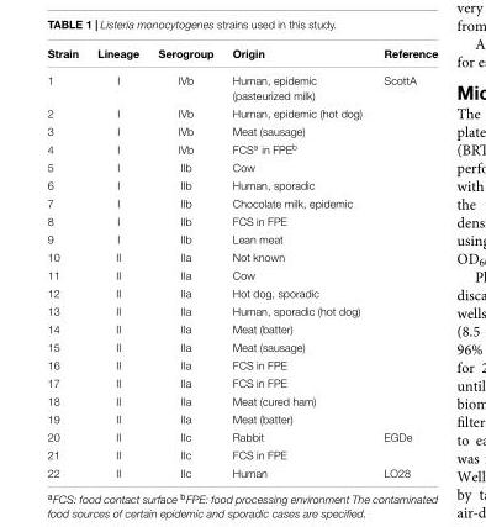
<table><thead><tr><td>Strain</td><td>Lineage</td><td>Serogroup</td><td>Origin</td><td>Reference</td></tr></thead><tbody><tr><td>1</td><td>I</td><td>IVb</td><td>Human, epidemic (pasteurized milk)</td><td>ScottA</td></tr><tr><td>2</td><td>I</td><td>IVb</td><td>Human, epidemic (hot dog)</td><td></td></tr><tr><td>3</td><td>I</td><td>IVb</td><td>Meat (sausage)</td><td></td></tr><tr><td>4</td><td>I</td><td>IVb</td><td>FCS<sup>a</sup> in FPE<sup>b</sup></td><td></td></tr><tr><td>5</td><td>I</td><td>IIb</td><td>Cow</td><td></td></tr><tr><td>6</td><td>I</td><td>IIb</td><td>Human, sporadic</td><td></td></tr><tr><td>7</td><td>I</td><td>IIb</td><td>Chocolate milk, epidemic</td><td></td></tr><tr><td>8</td><td>I</td><td>IIb</td><td>FCS in FPE</td><td></td></tr><tr><td>9</td><td>I</td><td>IIb</td><td>Lean meat</td><td></td></tr><tr><td>10</td><td>II</td><td>IIa</td><td>Not known</td><td></td></tr><tr><td>11</td><td>II</td><td>IIa</td><td>Cow</td><td></td></tr><tr><td>12</td><td>II</td><td>IIa</td><td>Hot dog, sporadic</td><td></td></tr><tr><td>13</td><td>II</td><td>IIa</td><td>Human, sporadic (hot dog)</td><td></td></tr><tr><td>14</td><td>II</td><td>IIa</td><td>Meat (batter)</td><td></td></tr><tr><td>15</td><td>II</td><td>IIa</td><td>Meat (sausage)</td><td></td></tr><tr><td>16</td><td>II</td><td>IIa</td><td>FCS in FPE</td><td></td></tr><tr><td>17</td><td>II</td><td>IIa</td><td>FCS in FPE</td><td></td></tr><tr><td>18</td><td>II</td><td>IIa</td><td>Meat (cured ham)</td><td></td></tr><tr><td>19</td><td>II</td><td>IIa</td><td>Meat (batter)</td><td></td></tr><tr><td>20</td><td>II</td><td>IIc</td><td>Rabbit</td><td>EGDe</td></tr><tr><td>21</td><td>II</td><td>IIc</td><td>FCS in FPE</td><td></td></tr><tr><td>22</td><td>II</td><td>IIc</td><td>Human</td><td>LO28</td></tr></tbody></table>